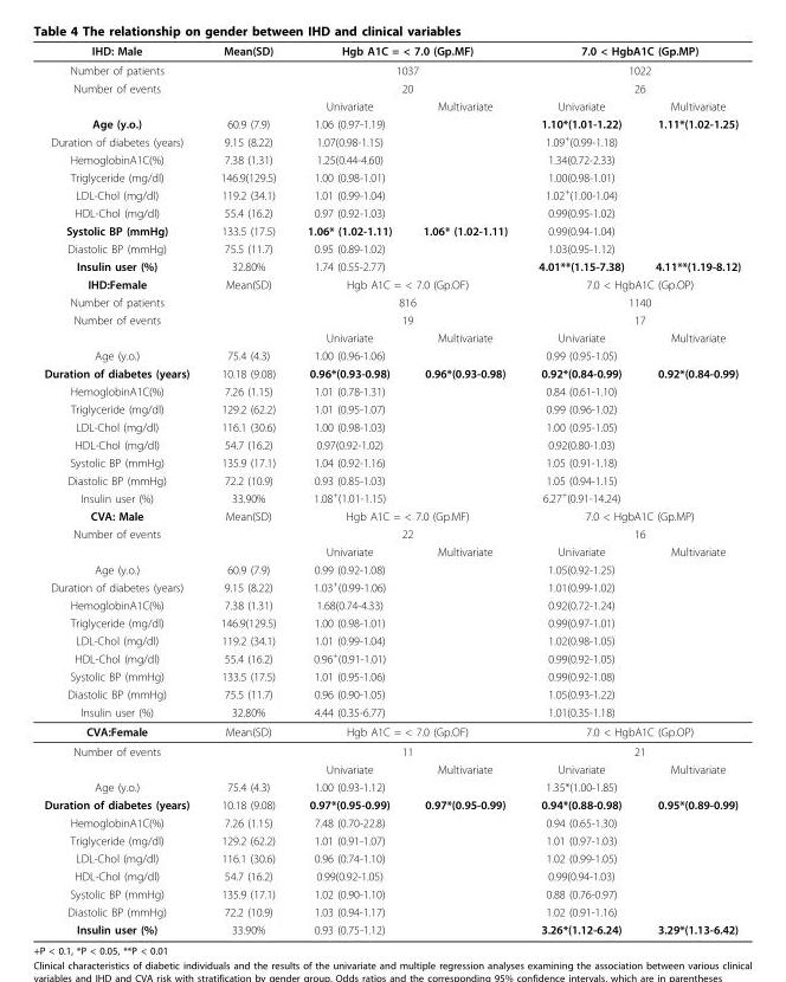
<table><thead><tr><td rowspan="4">IHD: Male Number of patients Number of events</td><td rowspan="4">Mean(SD)</td><td rowspan="3" colspan="2">Hgb A1C = &lt; 7.0 (Gp.MF) 1037 20</td><td rowspan="3" colspan="2">7.0 &lt; HgbA1C (Gp.MP) 1022 26</td></tr><tr></tr><tr></tr><tr><td>Univariate</td><td>Multivariate</td><td>Univariate</td><td>Multivariate</td></tr></thead><tbody><tr><td>Age (y.o.)</td><td>60.9 (7.9)</td><td>1.06 (0.97-1.19)</td><td></td><td>1.10*(1.01-1.22)</td><td>1.11*(1.02-1.25)</td></tr><tr><td>Duration of diabetes (years)</td><td>9.15 (8.22)</td><td>1.07(0.98-1.15)</td><td></td><td>1.09<sup>+</sup>(0.99-1.18)</td><td></td></tr><tr><td>HemoglobinA1C(%)</td><td>7.38 (1.31)</td><td>1.25(0.44-4.60)</td><td></td><td>1.34(0.72-2.33)</td><td></td></tr><tr><td>Triglyceride (mg/dl)</td><td>146.9(129.5)</td><td>1.00 (0.98-1.01)</td><td></td><td>1.00(0.98-1.01)</td><td></td></tr><tr><td>LDL-Chol (mg/dl)</td><td>119.2 (34.1)</td><td>1.01 (0.99-1.04)</td><td></td><td>1.02<sup>+</sup>(1.00-1.04)</td><td></td></tr><tr><td>HDL-Chol (mg/dl)</td><td>55.4 (16.2)</td><td>0.97 (0.92-1.03)</td><td></td><td>0.99(0.95-1.02)</td><td></td></tr><tr><td>Systolic BP (mmHg)</td><td>133.5 (17.5)</td><td>1.06* (1.02-1.11)</td><td>1.06* (1.02-1.11)</td><td>0.99(0.94-1.04)</td><td></td></tr><tr><td>Diastolic BP (mmHg)</td><td>75.5 (11.7)</td><td>0.95 (0.89-1.02)</td><td></td><td>1.03(0.95-1.12)</td><td></td></tr><tr><td>Insulin user (%)</td><td>32.80%</td><td>1.74 (0.55-2.77)</td><td></td><td>4.01**(1.15-7.38)</td><td>4.11**(1.19-8.12)</td></tr><tr><td>IHD:Female</td><td>Mean(SD)</td><td colspan="2">Hgb A1C = &lt; 7.0 (Gp.OF)</td><td colspan="2">7.0 &lt; HgbA1C (Gp.OP)</td></tr><tr><td>Number of patients</td><td></td><td colspan="2">816</td><td colspan="2">1140</td></tr><tr><td rowspan="2">Number of events</td><td></td><td colspan="2">19</td><td colspan="2">17</td></tr><tr><td></td><td>Univariate</td><td>Multivariate</td><td>Univariate</td><td>Multivariate</td></tr><tr><td>Age (y.o.)</td><td>75.4 (4.3)</td><td>1.00 (0.96-1.06)</td><td></td><td>0.99 (0.95-1.05)</td><td></td></tr><tr><td>Duration of diabetes (years)</td><td>10.18 (9.08)</td><td>0.96*(0.93-0.98)</td><td>0.96*(0.93-0.98)</td><td>0.92*(0.84-0.99)</td><td>0.92*(0.84-0.99)</td></tr><tr><td>HemoglobinA1C(%)</td><td>7.26 (1.15)</td><td>1.01 (0.78-1.31)</td><td></td><td>0.84 (0.61-1.10)</td><td></td></tr><tr><td>Triglyceride (mg/dl)</td><td>129.2 (62.2)</td><td>1.01 (0.95-1.07)</td><td></td><td>0.99 (0.96-1.02)</td><td></td></tr><tr><td>LDL-Chol (mg/dl)</td><td>116.1 (30.6)</td><td>1.00 (0.98-1.03)</td><td></td><td>1.00 (0.95-1.05)</td><td></td></tr><tr><td>HDL-Chol (mg/dl)</td><td>54.7 (16.2)</td><td>0.97(0.92-1.02)</td><td></td><td>0.92(0.80-1.03)</td><td></td></tr><tr><td>Systolic BP (mmHg)</td><td>135.9 (17.1)</td><td>1.04 (0.92-1.16)</td><td></td><td>1.05 (0.91-1.18)</td><td></td></tr><tr><td>Diastolic BP (mmHg)</td><td>72.2 (10.9)</td><td>0.93 (0.85-1.03)</td><td></td><td>1.05 (0.94-1.15)</td><td></td></tr><tr><td>Insulin user (%)</td><td>33.90%</td><td>1.08<sup>+</sup>(1.01-1.15)</td><td></td><td>6.27<sup>+</sup>(0.91-14.24)</td><td></td></tr><tr><td>CVA: Male</td><td>Mean(SD)</td><td colspan="2">Hgb A1C = &lt; 7.0 (Gp.MF)</td><td colspan="2">7.0 &lt; HgbA1C (Gp.MP)</td></tr><tr><td rowspan="2">Number of events</td><td></td><td colspan="2">22</td><td colspan="2">16</td></tr><tr><td></td><td>Univariate</td><td>Multivariate</td><td>Univariate</td><td>Multivariate</td></tr><tr><td>Age (y.o.)</td><td>60.9 (7.9)</td><td>0.99 (0.92-1.08)</td><td></td><td>1.05(0.92-1.25)</td><td></td></tr><tr><td>Duration of diabetes (years)</td><td>9.15 (8.22)</td><td>1.03<sup>+</sup>(0.99-1.06)</td><td></td><td>1.01(0.99-1.02)</td><td></td></tr><tr><td>HemoglobinA1C(%)</td><td>7.38 (1.31)</td><td>1.68(0.74-4.33)</td><td></td><td>0.92(0.72-1.24)</td><td></td></tr><tr><td>Triglyceride (mg/dl)</td><td>146.9(129.5)</td><td>1.00 (0.98-1.01)</td><td></td><td>0.99(0.97-1.01)</td><td></td></tr><tr><td>LDL-Chol (mg/dl)</td><td>119.2 (34.1)</td><td>1.01 (0.99-1.04)</td><td></td><td>1.02(0.98-1.05)</td><td></td></tr><tr><td>HDL-Chol (mg/dl)</td><td>55.4 (16.2)</td><td>0.96<sup>+</sup>(0.91-1.01)</td><td></td><td>0.99(0.92-1.05)</td><td></td></tr><tr><td>Systolic BP (mmHg)</td><td>133.5 (17.5)</td><td>1.01 (0.95-1.06)</td><td></td><td>0.99(0.92-1.08)</td><td></td></tr><tr><td>Diastolic BP (mmHg)</td><td>75.5 (11.7)</td><td>0.96 (0.90-1.05)</td><td></td><td>1.05(0.93-1.22)</td><td></td></tr><tr><td>Insulin user (%)</td><td>32.80%</td><td>4.44 (0.35-6.77)</td><td></td><td>1.01(0.35-1.18)</td><td></td></tr><tr><td>CVA:Female</td><td>Mean(SD)</td><td colspan="2">Hgb A1C = &lt; 7.0 (Gp.OF)</td><td colspan="2">7.0 &lt; HgbA1C (Gp.OP)</td></tr><tr><td rowspan="2">Number of events</td><td></td><td colspan="2">11</td><td colspan="2">21</td></tr><tr><td></td><td>Univariate</td><td>Multivariate</td><td>Univariate</td><td>Multivariate</td></tr><tr><td>Age (y.o.)</td><td>75.4 (4.3)</td><td>1.00 (0.93-1.12)</td><td></td><td>1.35*(1.00-1.85)</td><td></td></tr><tr><td>Duration of diabetes (years)</td><td>10.18 (9.08)</td><td>0.97*(0.95-0.99)</td><td>0.97*(0.95-0.99)</td><td>0.94*(0.88-0.98)</td><td>0.95*(0.89-0.99)</td></tr><tr><td>HemoglobinA1C(%)</td><td>7.26 (1.15)</td><td>7.48 (0.70-22.8)</td><td></td><td>0.94 (0.65-1.30)</td><td></td></tr><tr><td>Triglyceride (mg/dl)</td><td>129.2 (62.2)</td><td>1.01 (0.91-1.07)</td><td></td><td>1.01 (0.97-1.03)</td><td></td></tr><tr><td>LDL-Chol (mg/dl)</td><td>116.1 (30.6)</td><td>0.96 (0.74-1.10)</td><td></td><td>1.02 (0.99-1.05)</td><td></td></tr><tr><td>HDL-Chol (mg/dl)</td><td>54.7 (16.2)</td><td>0.99(0.92-1.05)</td><td></td><td>0.99(0.94-1.03)</td><td></td></tr><tr><td>Systolic BP (mmHg)</td><td>135.9 (17.1)</td><td>1.02 (0.90-1.10)</td><td></td><td>0.88 (0.76-0.97)</td><td></td></tr><tr><td>Diastolic BP (mmHg)</td><td>72.2 (10.9)</td><td>1.03 (0.94-1.17)</td><td></td><td>1.02 (0.91-1.16)</td><td></td></tr><tr><td>Insulin user (%)</td><td>33.90%</td><td>0.93 (0.75-1.12)</td><td></td><td>3.26*(1.12-6.24)</td><td>3.29*(1.13-6.42)</td></tr></tbody></table>